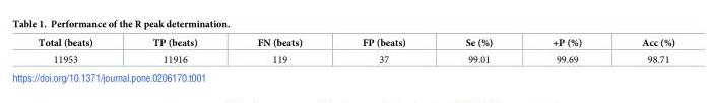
<table><thead><tr><td>Total (beats)</td><td>TP (beats)</td><td>FN (beats)</td><td>FP (beats)</td><td>Se (%)</td><td>+P (%)</td><td>Acc (%)</td></tr></thead><tbody><tr><td>11953</td><td>11916</td><td>119</td><td>37</td><td>99.01</td><td>99.69</td><td>98.71</td></tr></tbody></table>